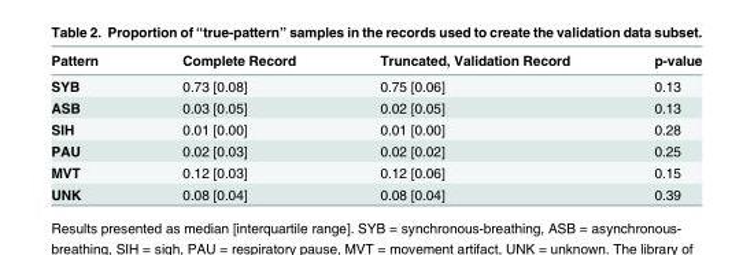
<table><thead><tr><td>Pattern</td><td>Complete Record</td><td>Truncated, Validation Record</td><td>p-value</td></tr></thead><tbody><tr><td>SYB</td><td>0.73 [0.08]</td><td>0.75 [0.06]</td><td>0.13</td></tr><tr><td>ASB</td><td>0.03 [0.05]</td><td>0.02 [0.05]</td><td>0.13</td></tr><tr><td>SIH</td><td>0.01 [0.00]</td><td>0.01 [0.00]</td><td>0.28</td></tr><tr><td>PAU</td><td>0.02 [0.03]</td><td>0.02 [0.02]</td><td>0.25</td></tr><tr><td>MVT</td><td>0.12 [0.03]</td><td>0.12 [0.06]</td><td>0.15</td></tr><tr><td>UNK</td><td>0.08 [0.04]</td><td>0.08 [0.04]</td><td>0.39</td></tr></tbody></table>